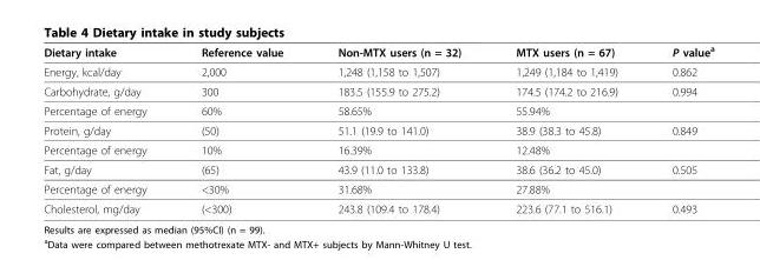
<table><thead><tr><td>Dietary intake</td><td>Reference value</td><td>Non-MTX users (n = 32)</td><td>MTX users (n = 67)</td><td>P value<sup>a</sup></td></tr></thead><tbody><tr><td>Energy, kcal/day</td><td>2,000</td><td>1,248 (1,158 to 1,507)</td><td>1,249 (1,184 to 1,419)</td><td>0.862</td></tr><tr><td>Carbohydrate, g/day</td><td>300</td><td>183.5 (155.9 to 275.2)</td><td>174.5 (174.2 to 216.9)</td><td>0.994</td></tr><tr><td>Percentage of energy</td><td>60%</td><td>58.65%</td><td>55.94%</td><td></td></tr><tr><td>Protein, g/day</td><td>(50)</td><td>51.1 (19.9 to 141.0)</td><td>38.9 (38.3 to 45.8)</td><td>0.849</td></tr><tr><td>Percentage of energy</td><td>10%</td><td>16.39%</td><td>12.48%</td><td></td></tr><tr><td>Fat, g/day</td><td>(65)</td><td>43.9 (11.0 to 133.8)</td><td>38.6 (36.2 to 45.0)</td><td>0.505</td></tr><tr><td>Percentage of energy</td><td>&lt;30%</td><td>31.68%</td><td>27.88%</td><td></td></tr><tr><td>Cholesterol, mg/day</td><td>(&lt;300)</td><td>243.8 (109.4 to 178.4)</td><td>223.6 (77.1 to 516.1)</td><td>0.493</td></tr></tbody></table>